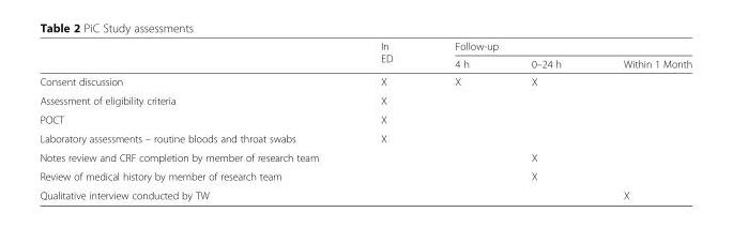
<table><thead><tr><td rowspan="2"></td><td rowspan="2">In ED</td><td colspan="3">Follow-up</td></tr><tr><td>4 h</td><td>0–24 h</td><td>Within 1 Month</td></tr></thead><tbody><tr><td>Consent discussion</td><td>X</td><td>X</td><td>X</td><td></td></tr><tr><td>Assessment of eligibility criteria</td><td>X</td><td></td><td></td><td></td></tr><tr><td>POCT</td><td>X</td><td></td><td></td><td></td></tr><tr><td>Laboratory assessments – routine bloods and throat swabs</td><td>X</td><td></td><td></td><td></td></tr><tr><td>Notes review and CRF completion by member of research team</td><td></td><td></td><td>X</td><td></td></tr><tr><td>Review of medical history by member of research team</td><td></td><td></td><td>X</td><td></td></tr><tr><td>Qualitative interview conducted by TW</td><td></td><td></td><td></td><td>X</td></tr></tbody></table>